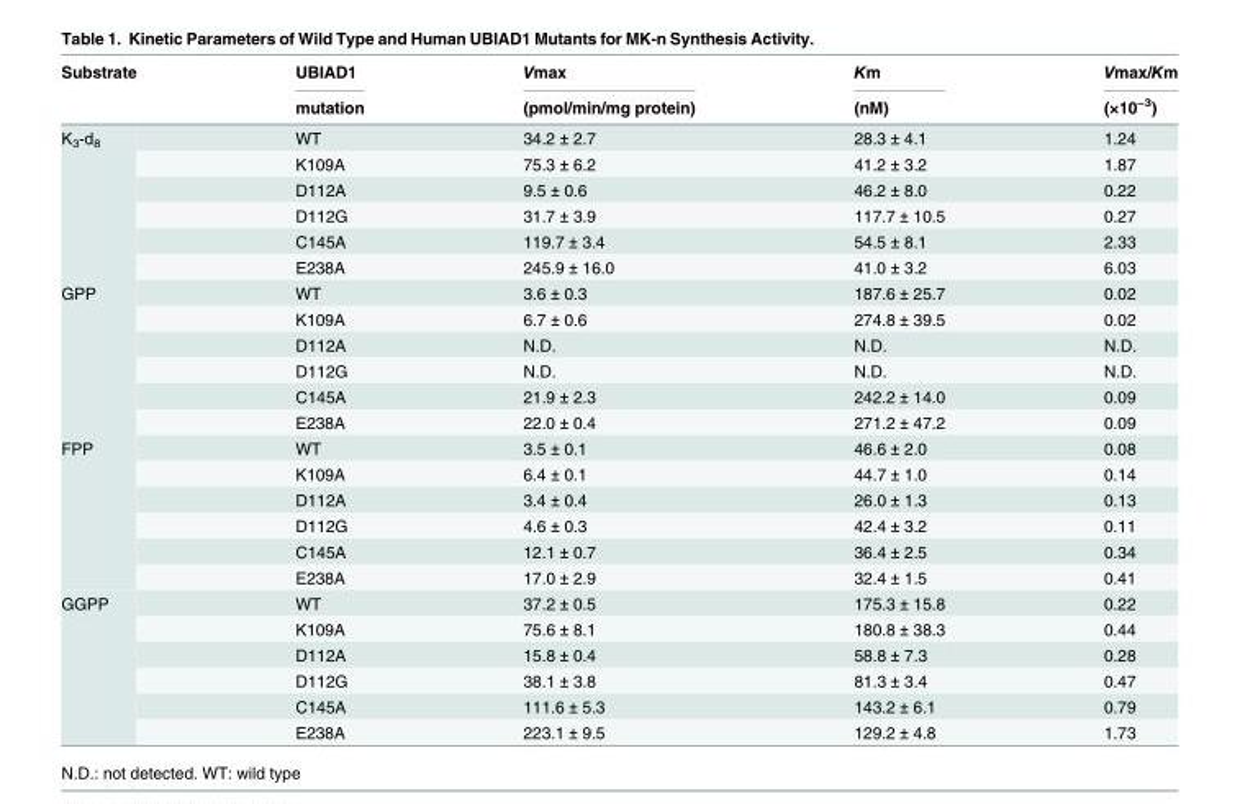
<table><thead><tr><td rowspan="2">Substrate</td><td rowspan="2">UBIAD1 mutation</td><td rowspan="2">Vmax (pmol/min/mg protein)</td><td rowspan="2">Km (nM)</td><td rowspan="2">Vmax/Km (×10<sup>−3</sup>)</td></tr><tr></tr></thead><tbody><tr><td rowspan="6">K<sub>3</sub>-d<sub>8</sub></td><td>WT</td><td>34.2 ± 2.7</td><td>28.3 ± 4.1</td><td>1.24</td></tr><tr><td>K109A</td><td>75.3 ± 6.2</td><td>41.2 ± 3.2</td><td>1.87</td></tr><tr><td>D112A</td><td>9.5 ± 0.6</td><td>46.2 ± 8.0</td><td>0.22</td></tr><tr><td>D112G</td><td>31.7 ± 3.9</td><td>117.7 ± 10.5</td><td>0.27</td></tr><tr><td>C145A</td><td>119.7 ± 3.4</td><td>54.5 ± 8.1</td><td>2.33</td></tr><tr><td>E238A</td><td>245.9 ± 16.0</td><td>41.0 ± 3.2</td><td>6.03</td></tr><tr><td rowspan="6">GPP</td><td>WT</td><td>3.6 ± 0.3</td><td>187.6 ± 25.7</td><td>0.02</td></tr><tr><td>K109A</td><td>6.7 ± 0.6</td><td>274.8 ± 39.5</td><td>0.02</td></tr><tr><td>D112A</td><td>N.D.</td><td>N.D.</td><td>N.D.</td></tr><tr><td>D112G</td><td>N.D.</td><td>N.D.</td><td>N.D.</td></tr><tr><td>C145A</td><td>21.9 ± 2.3</td><td>242.2 ± 14.0</td><td>0.09</td></tr><tr><td>E238A</td><td>22.0 ± 0.4</td><td>271.2 ± 47.2</td><td>0.09</td></tr><tr><td rowspan="6">FPP</td><td>WT</td><td>3.5 ± 0.1</td><td>46.6 ± 2.0</td><td>0.08</td></tr><tr><td>K109A</td><td>6.4 ± 0.1</td><td>44.7 ± 1.0</td><td>0.14</td></tr><tr><td>D112A</td><td>3.4 ± 0.4</td><td>26.0 ± 1.3</td><td>0.13</td></tr><tr><td>D112G</td><td>4.6 ± 0.3</td><td>42.4 ± 3.2</td><td>0.11</td></tr><tr><td>C145A</td><td>12.1 ± 0.7</td><td>36.4 ± 2.5</td><td>0.34</td></tr><tr><td>E238A</td><td>17.0 ± 2.9</td><td>32.4 ± 1.5</td><td>0.41</td></tr><tr><td rowspan="6">GGPP</td><td>WT</td><td>37.2 ± 0.5</td><td>175.3 ± 15.8</td><td>0.22</td></tr><tr><td>K109A</td><td>75.6 ± 8.1</td><td>180.8 ± 38.3</td><td>0.44</td></tr><tr><td>D112A</td><td>15.8 ± 0.4</td><td>58.8 ± 7.3</td><td>0.28</td></tr><tr><td>D112G</td><td>38.1 ± 3.8</td><td>81.3 ± 3.4</td><td>0.47</td></tr><tr><td>C145A</td><td>111.6 ± 5.3</td><td>143.2 ± 6.1</td><td>0.79</td></tr><tr><td>E238A</td><td>223.1 ± 9.5</td><td>129.2 ± 4.8</td><td>1.73</td></tr></tbody></table>